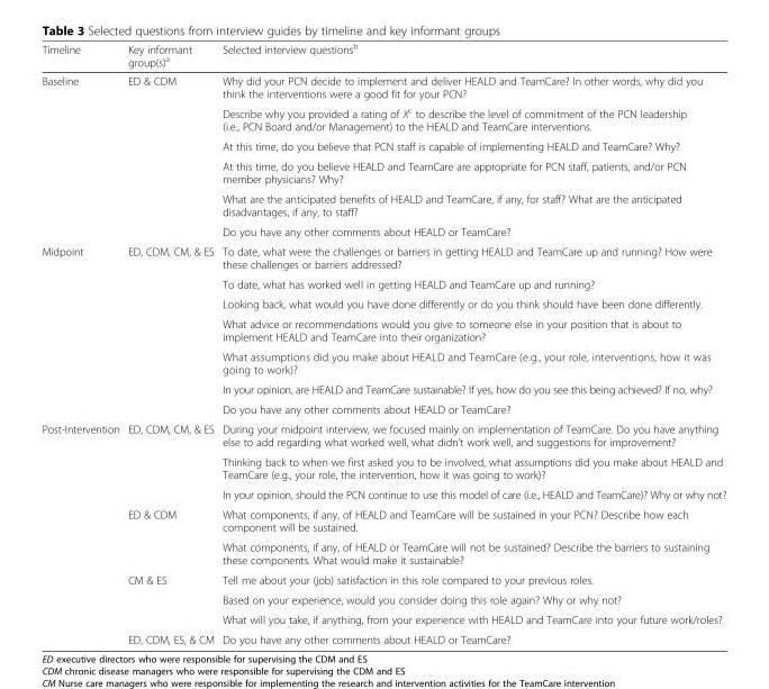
<table><thead><tr><td>Timeline</td><td>Key informant group(s)<sup>a</sup></td><td>Selected interview questions<sup>b</sup></td></tr></thead><tbody><tr><td rowspan="6">Baseline</td><td rowspan="6">ED &amp; CDM</td><td>Why did your PCN decide to implement and deliver HEALD and TeamCare? In other words, why did you think the interventions were a good fit for your PCN?</td></tr><tr><td>Describe why you provided a rating of X<sup>c</sup> to describe the level of commitment of the PCN leadership (i.e., PCN Board and/or Management) to the HEALD and TeamCare interventions.</td></tr><tr><td>At this time, do you believe that PCN staff is capable of implementing HEALD and TeamCare? Why?</td></tr><tr><td>At this time, do you believe HEALD and TeamCare are appropriate for PCN staff, patients, and/or PCN member physicians? Why?</td></tr><tr><td>What are the anticipated benefits of HEALD and TeamCare, if any, for staff? What are the anticipated disadvantages, if any, to staff?</td></tr><tr><td>Do you have any other comments about HEALD or TeamCare?</td></tr><tr><td rowspan="7">Midpoint</td><td rowspan="7">ED, CDM, CM, &amp; ES</td><td>To date, what were the challenges or barriers in getting HEALD and TeamCare up and running? How were these challenges or barriers addressed?</td></tr><tr><td>To date, what has worked well in getting HEALD and TeamCare up and running?</td></tr><tr><td>Looking back, what would you have done differently or do you think should have been done differently.</td></tr><tr><td>What advice or recommendations would you give to someone else in your position that is about to implement HEALD and TeamCare into their organization?</td></tr><tr><td>What assumptions did you make about HEALD and TeamCare (e.g., your role, interventions, how it was going to work)?</td></tr><tr><td>In your opinion, are HEALD and TeamCare sustainable? If yes, how do you see this being achieved? If no, why?</td></tr><tr><td>Do you have any other comments about HEALD or TeamCare?</td></tr><tr><td rowspan="9">Post-Intervention</td><td rowspan="3">ED, CDM, CM, &amp; ES</td><td>During your midpoint interview, we focused mainly on implementation of TeamCare. Do you have anything else to add regarding what worked well, what didn’t work well, and suggestions for improvement?</td></tr><tr><td>Thinking back to when we first asked you to be involved, what assumptions did you make about HEALD and TeamCare (e.g., your role, the intervention, how it was going to work)?</td></tr><tr><td>In your opinion, should the PCN continue to use this model of care (i.e., HEALD and TeamCare)? Why or why not?</td></tr><tr><td rowspan="2">ED &amp; CDM</td><td>What components, if any, of HEALD and TeamCare will be sustained in your PCN? Describe how each component will be sustained.</td></tr><tr><td>What components, if any, of HEALD or TeamCare will not be sustained? Describe the barriers to sustaining these components. What would make it sustainable?</td></tr><tr><td rowspan="3">CM &amp; ES</td><td>Tell me about your (job) satisfaction in this role compared to your previous roles.</td></tr><tr><td>Based on your experience, would you consider doing this role again? Why or why not?</td></tr><tr><td>What will you take, if anything, from your experience with HEALD and TeamCare into your future work/roles?</td></tr><tr><td>ED, CDM, ES, &amp; CM</td><td>Do you have any other comments about HEALD or TeamCare?</td></tr></tbody></table>